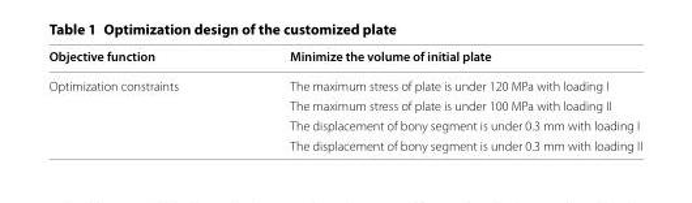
<table><thead><tr><td>Objective function</td><td>Minimize the volume of initial plate</td></tr></thead><tbody><tr><td rowspan="4">Optimization constraints</td><td>The maximum stress of plate is under 120 MPa with loading I</td></tr><tr><td>The maximum stress of plate is under 100 MPa with loading II</td></tr><tr><td>The displacement of bony segment is under 0.3 mm with loading I</td></tr><tr><td>The displacement of bony segment is under 0.3 mm with loading II</td></tr></tbody></table>